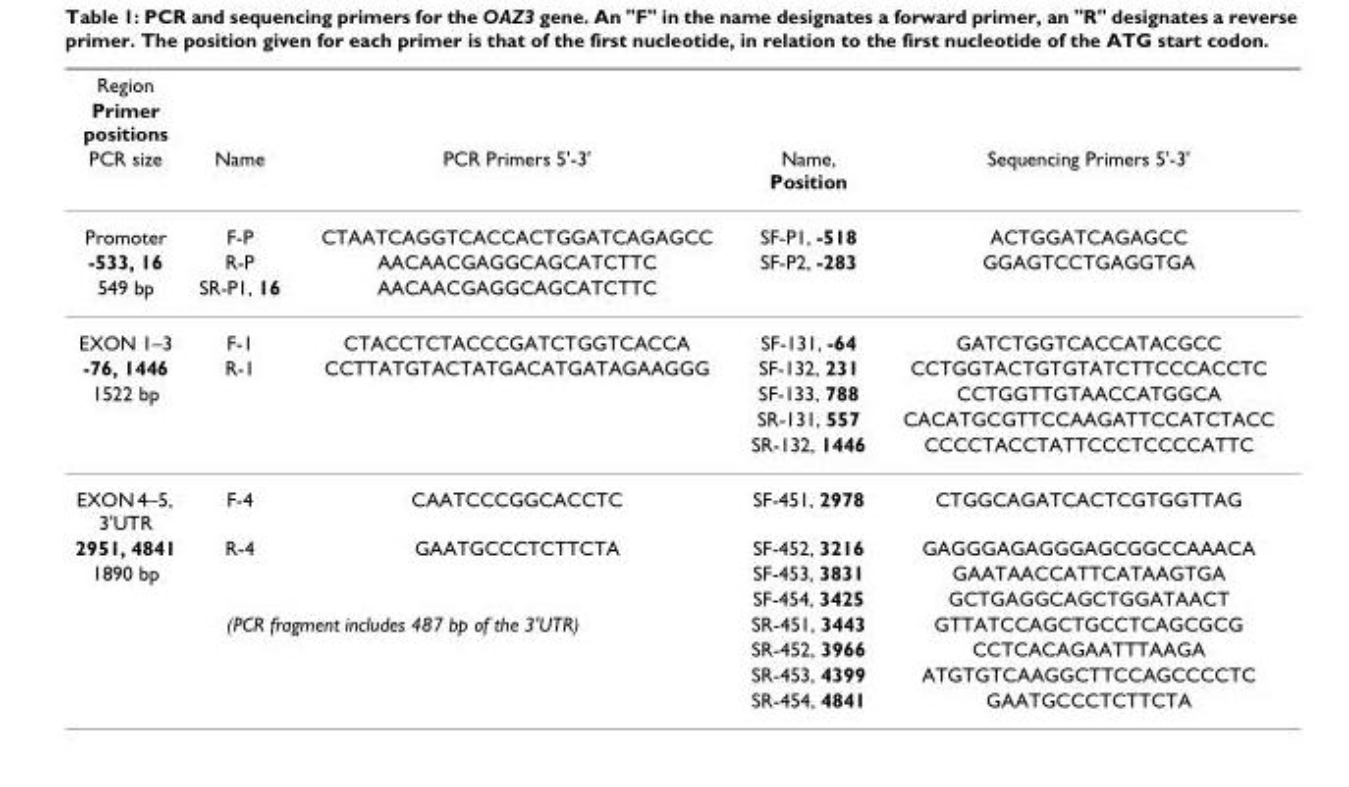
<table><thead><tr><td rowspan="3">Region Primer positions PCR size</td><td rowspan="3">Name</td><td rowspan="3">PCR Primers 5&#x27;-3&#x27;</td><td rowspan="3">Name, Position</td><td rowspan="3">Sequencing Primers 5&#x27;-3&#x27;</td></tr><tr></tr><tr></tr></thead><tbody><tr><td>Promoter</td><td>F-P</td><td>CTAATCAGGTCACCACTGGATCAGAGCC</td><td>SF-P1, -518</td><td>ACTGGATCAGAGCC</td></tr><tr><td>-533, 16</td><td>R-P</td><td>AACAACGAGGCAGCATCTTC</td><td>SF-P2, -283</td><td>GGAGTCCTGAGGTGA</td></tr><tr><td>549 bp</td><td>SR-P1, 16</td><td>AACAACGAGGCAGCATCTTC</td><td></td><td></td></tr><tr><td>EXON 1–3</td><td>F-1</td><td>CTACCTCTACCCGATCTGGTCACCA</td><td>SF-131, -64</td><td>GATCTGGTCACCATACGCC</td></tr><tr><td>-76, 1446</td><td>R-1</td><td>CCTTATGTACTATGACATGATAGAAGGG</td><td>SF-132, 231</td><td>CCTGGTACTGTGTATCTTCCCACCTC</td></tr><tr><td rowspan="3">1522 bp</td><td></td><td></td><td>SF-133, 788</td><td>CCTGGTTGTAACCATGGCA</td></tr><tr><td></td><td></td><td>SR-131, 557</td><td>CACATGCGTTCCAAGATTCCATCTACC</td></tr><tr><td></td><td></td><td>SR-132, 1446</td><td>CCCCTACCTATTCCCTCCCCATTC</td></tr><tr><td>EXON 4–5, 3&#x27;UTR</td><td>F-4</td><td>CAATCCCGGCACCTC</td><td>SF-451, 2978</td><td>CTGGCAGATCACTCGTGGTTAG</td></tr><tr><td>2951, 4841</td><td>R-4</td><td>GAATGCCCTCTTCTA</td><td>SF-452, 3216</td><td>GAGGGAGAGGGAGCGGCCAAACA</td></tr><tr><td rowspan="2">1890 bp</td><td></td><td></td><td>SF-453, 3831</td><td>GAATAACCATTCATAAGTGA</td></tr><tr><td></td><td></td><td>SF-454, 3425</td><td>GCTGAGGCAGCTGGATAACT</td></tr><tr><td colspan="3">(PCR fragment includes 487 bp of the 3&#x27;UTR)</td><td>SR-451, 3443</td><td>GTTATCCAGCTGCCTCAGCGCG</td></tr><tr><td></td><td></td><td></td><td>SR-452, 3966</td><td>CCTCACAGAATTTAAGA</td></tr><tr><td></td><td></td><td></td><td>SR-453, 4399</td><td>ATGTGTCAAGGCTTCCAGCCCCTC</td></tr><tr><td></td><td></td><td></td><td>SR-454, 4841</td><td>GAATGCCCTCTTCTA</td></tr></tbody></table>